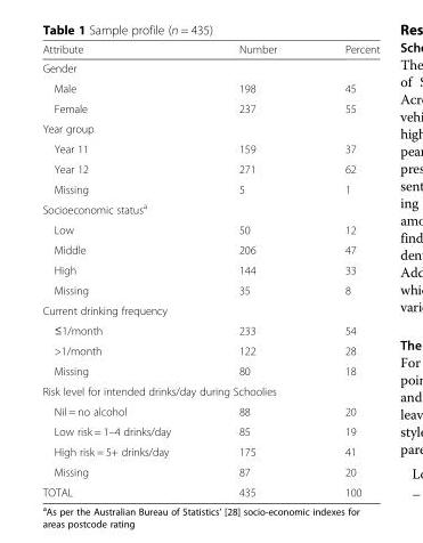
<table><thead><tr><td>Attribute</td><td>Number</td><td>Percent</td></tr></thead><tbody><tr><td colspan="3">Gender</td></tr><tr><td>Male</td><td>198</td><td>45</td></tr><tr><td>Female</td><td>237</td><td>55</td></tr><tr><td colspan="3">Year group</td></tr><tr><td>Year 11</td><td>159</td><td>37</td></tr><tr><td>Year 12</td><td>271</td><td>62</td></tr><tr><td>Missing</td><td>5</td><td>1</td></tr><tr><td colspan="3">Socioeconomic status<sup>a</sup></td></tr><tr><td>Low</td><td>50</td><td>12</td></tr><tr><td>Middle</td><td>206</td><td>47</td></tr><tr><td>High</td><td>144</td><td>33</td></tr><tr><td>Missing</td><td>35</td><td>8</td></tr><tr><td colspan="3">Current drinking frequency</td></tr><tr><td>≤1/month</td><td>233</td><td>54</td></tr><tr><td>&gt;1/month</td><td>122</td><td>28</td></tr><tr><td>Missing</td><td>80</td><td>18</td></tr><tr><td colspan="3">Risk level for intended drinks/day during Schoolies</td></tr><tr><td>Nil = no alcohol</td><td>88</td><td>20</td></tr><tr><td>Low risk = 1–4 drinks/day</td><td>85</td><td>19</td></tr><tr><td>High risk = 5+ drinks/day</td><td>175</td><td>41</td></tr><tr><td>Missing</td><td>87</td><td>20</td></tr><tr><td>TOTAL</td><td>435</td><td>100</td></tr></tbody></table>